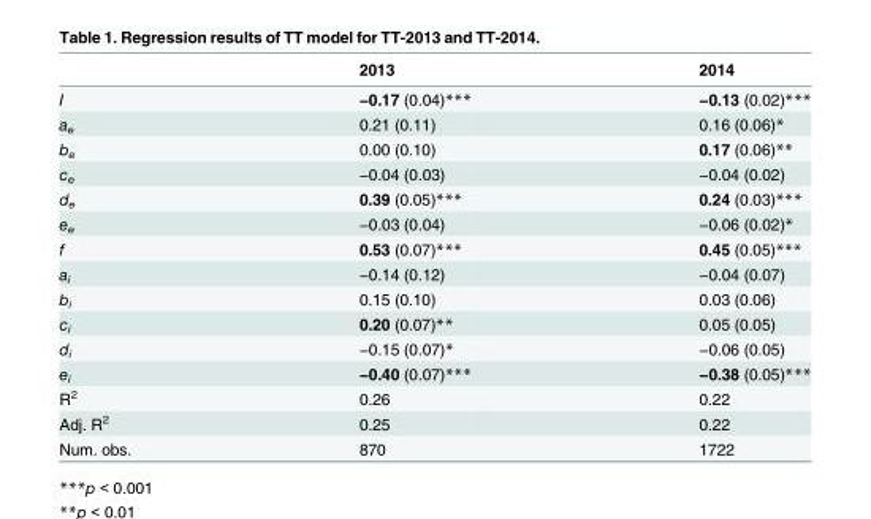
<table><thead><tr><td></td><td>2013</td><td>2014</td></tr></thead><tbody><tr><td>I</td><td>−0.17 (0.04)***</td><td>−0.13 (0.02)***</td></tr><tr><td>a<sub>e</sub></td><td>0.21 (0.11)</td><td>0.16 (0.06)*</td></tr><tr><td>b<sub>e</sub></td><td>0.00 (0.10)</td><td>0.17 (0.06)**</td></tr><tr><td>c<sub>e</sub></td><td>−0.04 (0.03)</td><td>−0.04 (0.02)</td></tr><tr><td>d<sub>e</sub></td><td>0.39 (0.05)***</td><td>0.24 (0.03)***</td></tr><tr><td>e<sub>e</sub></td><td>−0.03 (0.04)</td><td>−0.06 (0.02)*</td></tr><tr><td>f</td><td>0.53 (0.07)***</td><td>0.45 (0.05)***</td></tr><tr><td>a<sub>i</sub></td><td>−0.14 (0.12)</td><td>−0.04 (0.07)</td></tr><tr><td>b<sub>i</sub></td><td>0.15 (0.10)</td><td>0.03 (0.06)</td></tr><tr><td>c<sub>i</sub></td><td>0.20 (0.07)**</td><td>0.05 (0.05)</td></tr><tr><td>d<sub>i</sub></td><td>−0.15 (0.07)*</td><td>−0.06 (0.05)</td></tr><tr><td>e<sub>i</sub></td><td>−0.40 (0.07)***</td><td>−0.38 (0.05)***</td></tr><tr><td>R<sup>2</sup></td><td>0.26</td><td>0.22</td></tr><tr><td>Adj. R<sup>2</sup></td><td>0.25</td><td>0.22</td></tr><tr><td>Num. obs.</td><td>870</td><td>1722</td></tr></tbody></table>